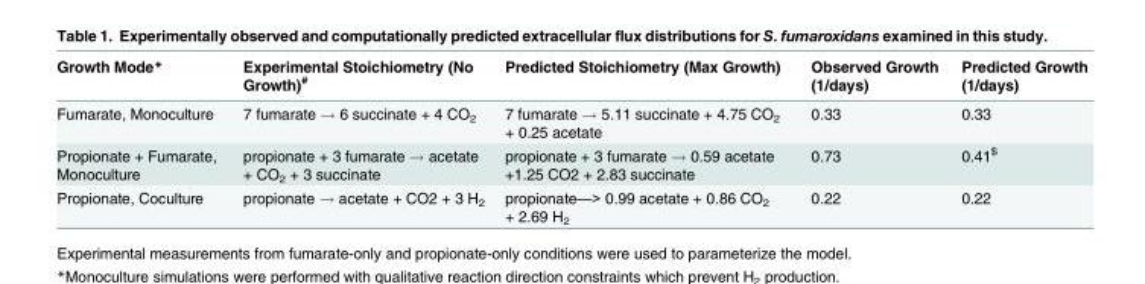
<table><thead><tr><td>Growth Mode*</td><td>Experimental Stoichiometry (No Growth)<sup>#</sup></td><td>Predicted Stoichiometry (Max Growth)</td><td>Observed Growth (1/days)</td><td>Predicted Growth (1/days)</td></tr></thead><tbody><tr><td>Fumarate, Monoculture</td><td>7 fumarate → 6 succinate + 4 CO<sub>2</sub></td><td>7 fumarate → 5.11 succinate + 4.75 CO<sub>2</sub> + 0.25 acetate</td><td>0.33</td><td>0.33</td></tr><tr><td>Propionate + Fumarate, Monoculture</td><td>propionate + 3 fumarate → acetate + CO<sub>2</sub> + 3 succinate</td><td>propionate + 3 fumarate → 0.59 acetate +1.25 CO2 + 2.83 succinate</td><td>0.73</td><td>0.41<sup>$</sup></td></tr><tr><td>Propionate, Coculture</td><td>propionate → acetate + CO2 + 3 H<sub>2</sub></td><td>propionate—&gt; 0.99 acetate + 0.86 CO<sub>2</sub> + 2.69 H<sub>2</sub></td><td>0.22</td><td>0.22</td></tr></tbody></table>